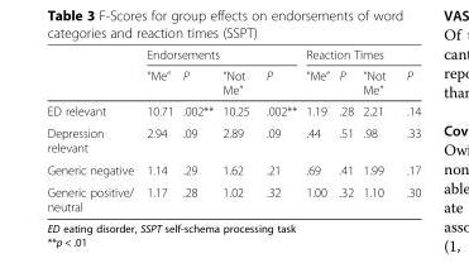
<table><thead><tr><td rowspan="2"></td><td colspan="4">Endorsements</td><td colspan="4">Reaction Times</td></tr><tr><td>“Me”</td><td>P</td><td>“Not Me”</td><td>P</td><td>“Me”</td><td>P</td><td>“Not Me”</td><td>P</td></tr></thead><tbody><tr><td>ED relevant</td><td>10.71</td><td>.002**</td><td>10.25</td><td>.002**</td><td>1.19</td><td>.28</td><td>2.21</td><td>.14</td></tr><tr><td>Depression relevant</td><td>2.94</td><td>.09</td><td>2.89</td><td>.09</td><td>.44</td><td>.51</td><td>.98</td><td>.33</td></tr><tr><td>Generic negative</td><td>1.14</td><td>.29</td><td>1.62</td><td>.21</td><td>.69</td><td>.41</td><td>1.99</td><td>.17</td></tr><tr><td>Generic positive/ neutral</td><td>1.17</td><td>.28</td><td>1.02</td><td>.32</td><td>1.00</td><td>.32</td><td>1.10</td><td>.30</td></tr></tbody></table>